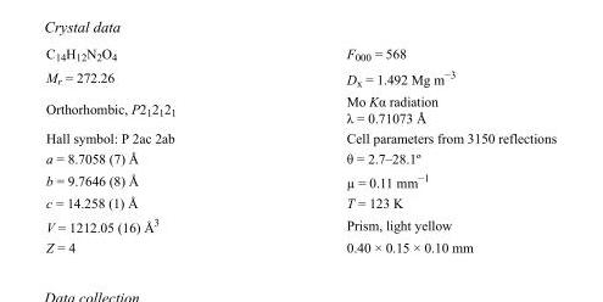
<table><tbody><tr><td>C<sub>14</sub>H<sub>12</sub>N<sub>2</sub>O<sub>4</sub></td><td>F000 = 568</td></tr><tr><td>M<sub>r</sub> = 272.26</td><td>D<sub>x</sub> = 1.492 Mg m<sup>−3</sup></td></tr><tr><td>Orthorhombic, P2<sub>1</sub>2<sub>1</sub>2<sub>1</sub></td><td>Mo Kα radiation λ = 0.71073 Å</td></tr><tr><td>Hall symbol: P 2ac 2ab</td><td>Cell parameters from 3150 reflections</td></tr><tr><td>a = 8.7058 (7) Å</td><td>θ = 2.7–28.1º</td></tr><tr><td>b = 9.7646 (8) Å</td><td>µ = 0.11 mm<sup>−1</sup></td></tr><tr><td>c = 14.258 (1) Å</td><td>T = 123 K</td></tr><tr><td>V = 1212.05 (16) Å<sup>3</sup></td><td>Prism, light yellow</td></tr><tr><td>Z = 4</td><td>0.40 × 0.15 × 0.10 mm</td></tr></tbody></table>